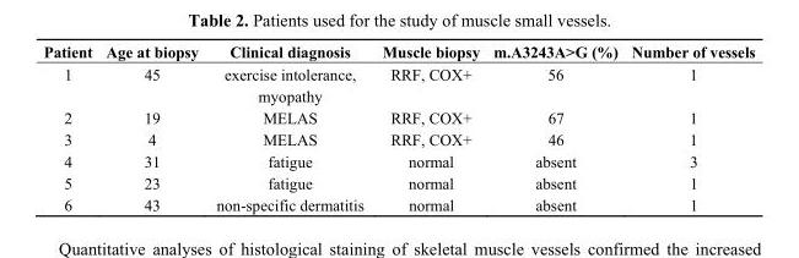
<table><thead><tr><td>Patient</td><td>Age at biopsy</td><td>Clinical diagnosis</td><td>Muscle biopsy</td><td>m.A3243A&gt;G (%)</td><td>Number of vessels</td></tr></thead><tbody><tr><td>1</td><td>45</td><td>exercise intolerance, myopathy</td><td>RRF, COX+</td><td>56</td><td>1</td></tr><tr><td>2</td><td>19</td><td>MELAS</td><td>RRF, COX+</td><td>67</td><td>1</td></tr><tr><td>3</td><td>4</td><td>MELAS</td><td>RRF, COX+</td><td>46</td><td>1</td></tr><tr><td>4</td><td>31</td><td>fatigue</td><td>normal</td><td>absent</td><td>3</td></tr><tr><td>5</td><td>23</td><td>fatigue</td><td>normal</td><td>absent</td><td>1</td></tr><tr><td>6</td><td>43</td><td>non-specific dermatitis</td><td>normal</td><td>absent</td><td>1</td></tr></tbody></table>